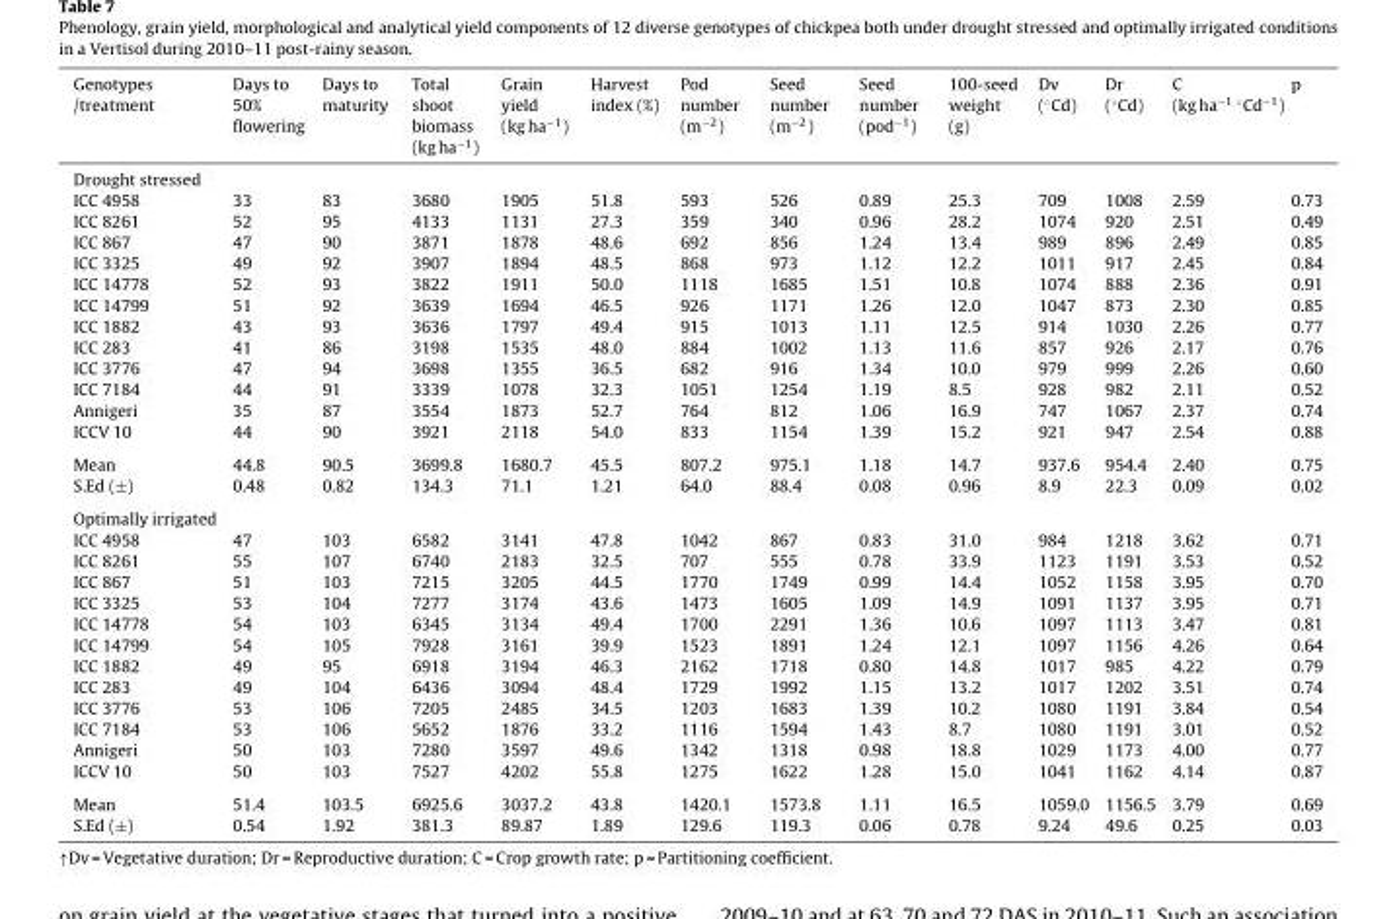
<table><thead><tr><td>Genotypes /treatment</td><td>Days to 50% flowering</td><td>Days to maturity</td><td>Total shoot biomass (kg ha<sup>−1</sup>)</td><td>Grain yield (kg ha<sup>−1</sup>)</td><td>Harvest index (%)</td><td>Pod number (m<sup>−2</sup>)</td><td>Seed number (m<sup>−2</sup>)</td><td>Seed number (pod<sup>−1</sup>)</td><td>100-seed weight (g)</td><td>Dv (◦Cd)</td><td>Dr (◦Cd)</td><td>C (kg ha−1 ◦Cd−1)</td><td>p</td></tr></thead><tbody><tr><td colspan="14">Drought stressed</td></tr><tr><td>ICC 4958</td><td>33</td><td>83</td><td>3680</td><td>1905</td><td>51.8</td><td>593</td><td>526</td><td>0.89</td><td>25.3</td><td>709</td><td>1008</td><td>2.59</td><td>0.73</td></tr><tr><td>ICC 8261</td><td>52</td><td>95</td><td>4133</td><td>1131</td><td>27.3</td><td>359</td><td>340</td><td>0.96</td><td>28.2</td><td>1074</td><td>920</td><td>2.51</td><td>0.49</td></tr><tr><td>ICC 867</td><td>47</td><td>90</td><td>3871</td><td>1878</td><td>48.6</td><td>692</td><td>856</td><td>1.24</td><td>13.4</td><td>989</td><td>896</td><td>2.49</td><td>0.85</td></tr><tr><td>ICC 3325</td><td>49</td><td>92</td><td>3907</td><td>1894</td><td>48.5</td><td>868</td><td>973</td><td>1.12</td><td>12.2</td><td>1011</td><td>917</td><td>2.45</td><td>0.84</td></tr><tr><td>ICC 14778</td><td>52</td><td>93</td><td>3822</td><td>1911</td><td>50.0</td><td>1118</td><td>1685</td><td>1.51</td><td>10.8</td><td>1074</td><td>888</td><td>2.36</td><td>0.91</td></tr><tr><td>ICC 14799</td><td>51</td><td>92</td><td>3639</td><td>1694</td><td>46.5</td><td>926</td><td>1171</td><td>1.26</td><td>12.0</td><td>1047</td><td>873</td><td>2.30</td><td>0.85</td></tr><tr><td>ICC 1882</td><td>43</td><td>93</td><td>3636</td><td>1797</td><td>49.4</td><td>915</td><td>1013</td><td>1.11</td><td>12.5</td><td>914</td><td>1030</td><td>2.26</td><td>0.77</td></tr><tr><td>ICC 283</td><td>41</td><td>86</td><td>3198</td><td>1535</td><td>48.0</td><td>884</td><td>1002</td><td>1.13</td><td>11.6</td><td>857</td><td>926</td><td>2.17</td><td>0.76</td></tr><tr><td>ICC 3776</td><td>47</td><td>94</td><td>3698</td><td>1355</td><td>36.5</td><td>682</td><td>916</td><td>1.34</td><td>10.0</td><td>979</td><td>999</td><td>2.26</td><td>0.60</td></tr><tr><td>ICC 7184</td><td>44</td><td>91</td><td>3339</td><td>1078</td><td>32.3</td><td>1051</td><td>1254</td><td>1.19</td><td>8.5</td><td>928</td><td>982</td><td>2.11</td><td>0.52</td></tr><tr><td>Annigeri</td><td>35</td><td>87</td><td>3554</td><td>1873</td><td>52.7</td><td>764</td><td>812</td><td>1.06</td><td>16.9</td><td>747</td><td>1067</td><td>2.37</td><td>0.74</td></tr><tr><td>ICCV 10</td><td>44</td><td>90</td><td>3921</td><td>2118</td><td>54.0</td><td>833</td><td>1154</td><td>1.39</td><td>15.2</td><td>921</td><td>947</td><td>2.54</td><td>0.88</td></tr><tr><td>Mean</td><td>44.8</td><td>90.5</td><td>3699.8</td><td>1680.7</td><td>45.5</td><td>807.2</td><td>975.1</td><td>1.18</td><td>14.7</td><td>937.6</td><td>954.4</td><td>2.40</td><td>0.75</td></tr><tr><td>S.Ed (±)</td><td>0.48</td><td>0.82</td><td>134.3</td><td>71.1</td><td>1.21</td><td>64.0</td><td>88.4</td><td>0.08</td><td>0.96</td><td>8.9</td><td>22.3</td><td>0.09</td><td>0.02</td></tr><tr><td colspan="14">Optimally irrigated</td></tr><tr><td>ICC 4958</td><td>47</td><td>103</td><td>6582</td><td>3141</td><td>47.8</td><td>1042</td><td>867</td><td>0.83</td><td>31.0</td><td>984</td><td>1218</td><td>3.62</td><td>0.71</td></tr><tr><td>ICC 8261</td><td>55</td><td>107</td><td>6740</td><td>2183</td><td>32.5</td><td>707</td><td>555</td><td>0.78</td><td>33.9</td><td>1123</td><td>1191</td><td>3.53</td><td>0.52</td></tr><tr><td>ICC 867</td><td>51</td><td>103</td><td>7215</td><td>3205</td><td>44.5</td><td>1770</td><td>1749</td><td>0.99</td><td>14.4</td><td>1052</td><td>1158</td><td>3.95</td><td>0.70</td></tr><tr><td>ICC 3325</td><td>53</td><td>104</td><td>7277</td><td>3174</td><td>43.6</td><td>1473</td><td>1605</td><td>1.09</td><td>14.9</td><td>1091</td><td>1137</td><td>3.95</td><td>0.71</td></tr><tr><td>ICC 14778</td><td>54</td><td>103</td><td>6345</td><td>3134</td><td>49.4</td><td>1700</td><td>2291</td><td>1.36</td><td>10.6</td><td>1097</td><td>1113</td><td>3.47</td><td>0.81</td></tr><tr><td>ICC 14799</td><td>54</td><td>105</td><td>7928</td><td>3161</td><td>39.9</td><td>1523</td><td>1891</td><td>1.24</td><td>12.1</td><td>1097</td><td>1156</td><td>4.26</td><td>0.64</td></tr><tr><td>ICC 1882</td><td>49</td><td>95</td><td>6918</td><td>3194</td><td>46.3</td><td>2162</td><td>1718</td><td>0.80</td><td>14.8</td><td>1017</td><td>985</td><td>4.22</td><td>0.79</td></tr><tr><td>ICC 283</td><td>49</td><td>104</td><td>6436</td><td>3094</td><td>48.4</td><td>1729</td><td>1992</td><td>1.15</td><td>13.2</td><td>1017</td><td>1202</td><td>3.51</td><td>0.74</td></tr><tr><td>ICC 3776</td><td>53</td><td>106</td><td>7205</td><td>2485</td><td>34.5</td><td>1203</td><td>1683</td><td>1.39</td><td>10.2</td><td>1080</td><td>1191</td><td>3.84</td><td>0.54</td></tr><tr><td>ICC 7184</td><td>53</td><td>106</td><td>5652</td><td>1876</td><td>33.2</td><td>1116</td><td>1594</td><td>1.43</td><td>8.7</td><td>1080</td><td>1191</td><td>3.01</td><td>0.52</td></tr><tr><td>Annigeri</td><td>50</td><td>103</td><td>7280</td><td>3597</td><td>49.6</td><td>1342</td><td>1318</td><td>0.98</td><td>18.8</td><td>1029</td><td>1173</td><td>4.00</td><td>0.77</td></tr><tr><td>ICCV 10</td><td>50</td><td>103</td><td>7527</td><td>4202</td><td>55.8</td><td>1275</td><td>1622</td><td>1.28</td><td>15.0</td><td>1041</td><td>1162</td><td>4.14</td><td>0.87</td></tr><tr><td>Mean</td><td>51.4</td><td>103.5</td><td>6925.6</td><td>3037.2</td><td>43.8</td><td>1420.1</td><td>1573.8</td><td>1.11</td><td>16.5</td><td>1059.0</td><td>1156.5</td><td>3.79</td><td>0.69</td></tr><tr><td>S.Ed (±)</td><td>0.54</td><td>1.92</td><td>381.3</td><td>89.87</td><td>1.89</td><td>129.6</td><td>119.3</td><td>0.06</td><td>0.78</td><td>9.24</td><td>49.6</td><td>0.25</td><td>0.03</td></tr></tbody></table>